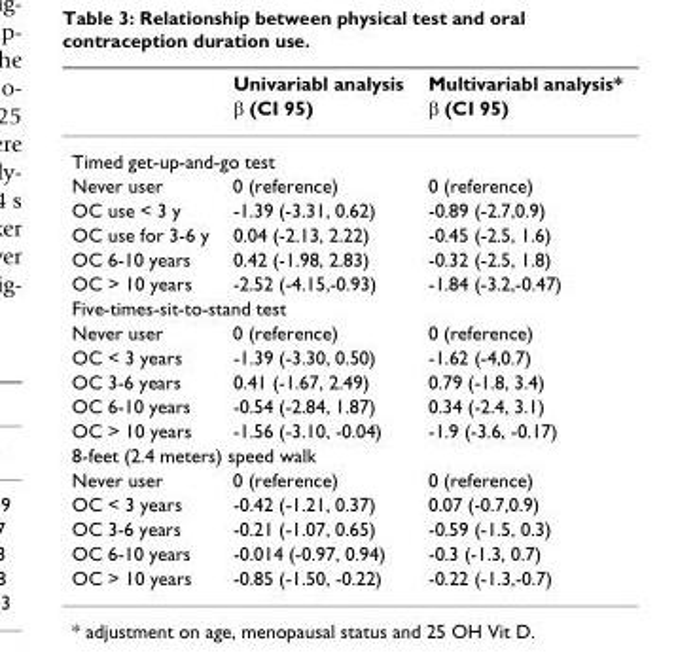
<table><thead><tr><td rowspan="2"></td><td rowspan="2">Univariabl analysis β (CI 95)</td><td rowspan="2">Multivariabl analysis* β (CI 95)</td></tr><tr></tr></thead><tbody><tr><td colspan="3">Timed get-up-and-go test</td></tr><tr><td>Never user</td><td>0 (reference)</td><td>0 (reference)</td></tr><tr><td>OC use &lt; 3 y</td><td>-1.39 (-3.31, 0.62)</td><td>-0.89 (-2.7,0.9)</td></tr><tr><td>OC use for 3-6 y</td><td>0.04 (-2.13, 2.22)</td><td>-0.45 (-2.5, 1.6)</td></tr><tr><td>OC 6-10 years</td><td>0.42 (-1.98, 2.83)</td><td>-0.32 (-2.5, 1.8)</td></tr><tr><td>OC &gt; 10 years</td><td>-2.52 (-4.15,-0.93)</td><td>-1.84 (-3.2,-0.47)</td></tr><tr><td colspan="3">Five-times-sit-to-stand test</td></tr><tr><td>Never user</td><td>0 (reference)</td><td>0 (reference)</td></tr><tr><td>OC &lt; 3 years</td><td>-1.39 (-3.30, 0.50)</td><td>-1.62 (-4,0.7)</td></tr><tr><td>OC 3-6 years</td><td>0.41 (-1.67, 2.49)</td><td>0.79 (-1.8, 3.4)</td></tr><tr><td>OC 6-10 years</td><td>-0.54 (-2.84, 1.87)</td><td>0.34 (-2.4, 3.1)</td></tr><tr><td>OC &gt; 10 years</td><td>-1.56 (-3.10, -0.04)</td><td>-1.9 (-3.6, -0.17)</td></tr><tr><td colspan="3">8-feet (2.4 meters) speed walk</td></tr><tr><td>Never user</td><td>0 (reference)</td><td>0 (reference)</td></tr><tr><td>OC &lt; 3 years</td><td>-0.42 (-1.21, 0.37)</td><td>0.07 (-0.7,0.9)</td></tr><tr><td>OC 3-6 years</td><td>-0.21 (-1.07, 0.65)</td><td>-0.59 (-1.5, 0.3)</td></tr><tr><td>OC 6-10 years</td><td>-0.014 (-0.97, 0.94)</td><td>-0.3 (-1.3, 0.7)</td></tr><tr><td>OC &gt; 10 years</td><td>-0.85 (-1.50, -0.22)</td><td>-0.22 (-1.3,-0.7)</td></tr></tbody></table>